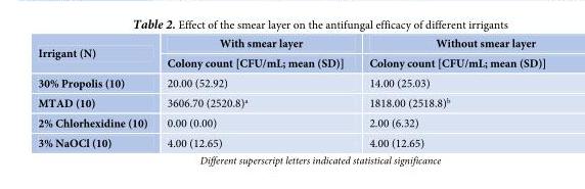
<table><thead><tr><td rowspan="2">Irrigant (N)</td><td rowspan="2">With smear layer Colony count [CFU/mL; mean (SD)]</td><td rowspan="2">Without smear layer Colony count [CFU/mL; mean (SD)]</td></tr><tr></tr></thead><tbody><tr><td>30% Propolis (10)</td><td>20.00 (52.92)</td><td>14.00 (25.03)</td></tr><tr><td>MTAD (10)</td><td>3606.70 (2520.8)<sup>a</sup></td><td>1818.00 (2518.8)<sup>b</sup></td></tr><tr><td>2% Chlorhexidine (10)</td><td>0.00 (0.00)</td><td>2.00 (6.32)</td></tr><tr><td>3% NaOCl (10)</td><td>4.00 (12.65)</td><td>4.00 (12.65)</td></tr></tbody></table>